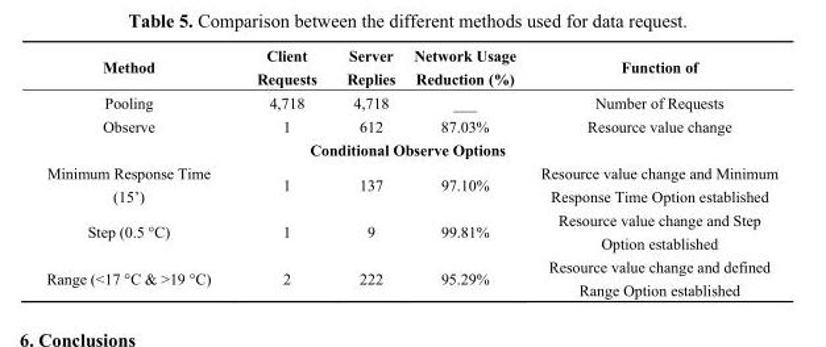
<table><thead><tr><td>Method</td><td>Client Requests</td><td>Server Replies</td><td>Network Usage Reduction (%)</td><td>Function of</td></tr></thead><tbody><tr><td>Pooling</td><td>4,718</td><td>4,718</td><td>___</td><td>Number of Requests</td></tr><tr><td>Observe</td><td>1</td><td>612</td><td>87.03%</td><td>Resource value change</td></tr><tr><td colspan="5">Conditional Observe Options</td></tr><tr><td>Minimum Response Time (15’)</td><td>1</td><td>137</td><td>97.10%</td><td>Resource value change and Minimum Response Time Option established</td></tr><tr><td>Step (0.5 °C)</td><td>1</td><td>9</td><td>99.81%</td><td>Resource value change and Step Option established</td></tr><tr><td>Range (&lt;17 °C &amp; &gt;19 °C)</td><td>2</td><td>222</td><td>95.29%</td><td>Resource value change and defined Range Option established</td></tr></tbody></table>